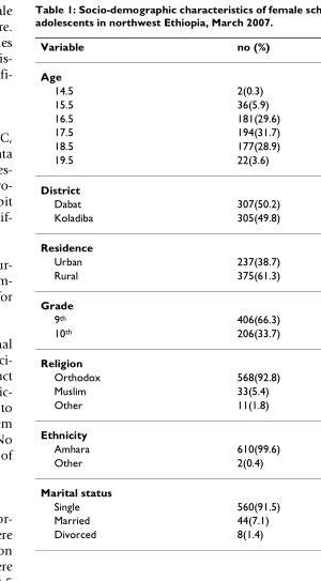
<table><thead><tr><td>Variable</td><td>no (%)</td></tr></thead><tbody><tr><td colspan="2">Age</td></tr><tr><td>14.5</td><td>2(0.3)</td></tr><tr><td>15.5</td><td>36(5.9)</td></tr><tr><td>16.5</td><td>181(29.6)</td></tr><tr><td>17.5</td><td>194(31.7)</td></tr><tr><td>18.5</td><td>177(28.9)</td></tr><tr><td>19.5</td><td>22(3.6)</td></tr><tr><td colspan="2">District</td></tr><tr><td>Dabat</td><td>307(50.2)</td></tr><tr><td>Koladiba</td><td>305(49.8)</td></tr><tr><td colspan="2">Residence</td></tr><tr><td>Urban</td><td>237(38.7)</td></tr><tr><td>Rural</td><td>375(61.3)</td></tr><tr><td colspan="2">Grade</td></tr><tr><td>9<sup>th</sup></td><td>406(66.3)</td></tr><tr><td>10<sup>th</sup></td><td>206(33.7)</td></tr><tr><td colspan="2">Religion</td></tr><tr><td>Orthodox</td><td>568(92.8)</td></tr><tr><td>Muslim</td><td>33(5.4)</td></tr><tr><td>Other</td><td>11(1.8)</td></tr><tr><td colspan="2">Ethnicity</td></tr><tr><td>Amhara</td><td>610(99.6)</td></tr><tr><td>Other</td><td>2(0.4)</td></tr><tr><td colspan="2">Marital status</td></tr><tr><td>Single</td><td>560(91.5)</td></tr><tr><td>Married</td><td>44(7.1)</td></tr><tr><td>Divorced</td><td>8(1.4)</td></tr></tbody></table>